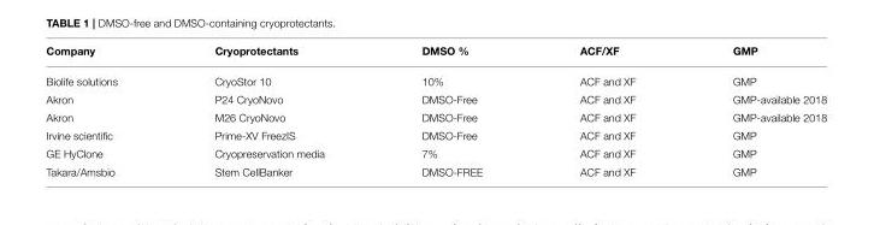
<table><thead><tr><td>Company</td><td>Cryoprotectants</td><td>DMSO %</td><td>ACF/XF</td><td>GMP</td></tr></thead><tbody><tr><td>Biolife solutions</td><td>CryoStor 10</td><td>10%</td><td>ACF and XF</td><td>GMP</td></tr><tr><td>Akron</td><td>P24 CryoNovo</td><td>DMSO-Free</td><td>ACF and XF</td><td>GMP-available 2018</td></tr><tr><td>Akron</td><td>M26 CryoNovo</td><td>DMSO-Free</td><td>ACF and XF</td><td>GMP-available 2018</td></tr><tr><td>Irvine scientific</td><td>Prime-XV FreezIS</td><td>DMSO-Free</td><td>ACF and XF</td><td>GMP</td></tr><tr><td>GE HyClone</td><td>Cryopreservation media</td><td>7%</td><td>ACF and XF</td><td>GMP</td></tr><tr><td>Takara/Amsbio</td><td>Stem CellBanker</td><td>DMSO-FREE</td><td>ACF and XF</td><td>GMP</td></tr></tbody></table>